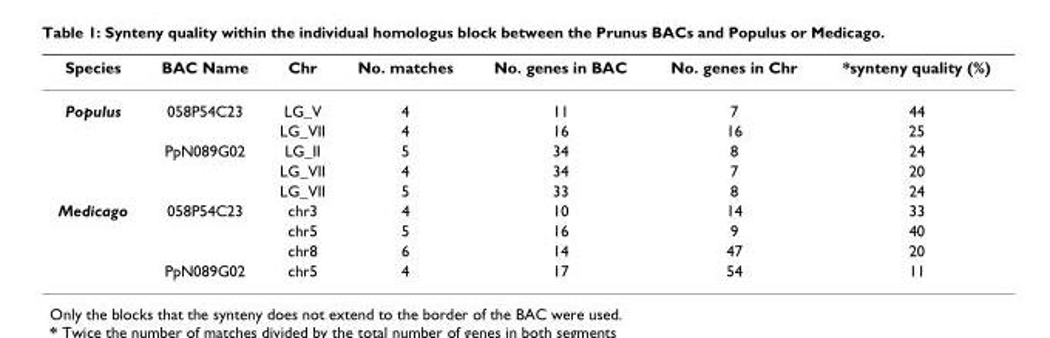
<table><thead><tr><td>Species</td><td>BAC Name</td><td>Chr</td><td>No. matches</td><td>No. genes in BAC</td><td>No. genes in Chr</td><td>*synteny quality (%)</td></tr></thead><tbody><tr><td rowspan="5">Populus</td><td>058P54C23</td><td>LG_V</td><td>4</td><td>11</td><td>7</td><td>44</td></tr><tr><td></td><td>LG_VII</td><td>4</td><td>16</td><td>16</td><td>25</td></tr><tr><td>PpN089G02</td><td>LG_II</td><td>5</td><td>34</td><td>8</td><td>24</td></tr><tr><td></td><td>LG_VII</td><td>4</td><td>34</td><td>7</td><td>20</td></tr><tr><td></td><td>LG_VII</td><td>5</td><td>33</td><td>8</td><td>24</td></tr><tr><td rowspan="4">Medicago</td><td>058P54C23</td><td>chr3</td><td>4</td><td>10</td><td>14</td><td>33</td></tr><tr><td></td><td>chr5</td><td>5</td><td>16</td><td>9</td><td>40</td></tr><tr><td></td><td>chr8</td><td>6</td><td>14</td><td>47</td><td>20</td></tr><tr><td>PpN089G02</td><td>chr5</td><td>4</td><td>17</td><td>54</td><td>11</td></tr></tbody></table>